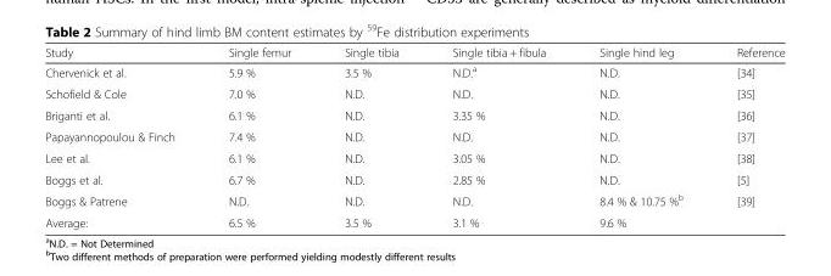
<table><thead><tr><td>Study</td><td>Single femur</td><td>Single tibia</td><td>Single tibia + fibula</td><td>Single hind leg</td><td>Reference</td></tr></thead><tbody><tr><td>Chervenick et al.</td><td>5.9 %</td><td>3.5 %</td><td>N.D.<sup>a</sup></td><td>N.D.</td><td>[34]</td></tr><tr><td>Schofield &amp; Cole</td><td>7.0 %</td><td>N.D.</td><td>N.D.</td><td>N.D.</td><td>[35]</td></tr><tr><td>Briganti et al.</td><td>6.1 %</td><td>N.D.</td><td>3.35 %</td><td>N.D.</td><td>[36]</td></tr><tr><td>Papayannopoulou &amp; Finch</td><td>7.4 %</td><td>N.D.</td><td>N.D.</td><td>N.D.</td><td>[37]</td></tr><tr><td>Lee et al.</td><td>6.1 %</td><td>N.D.</td><td>3.05 %</td><td>N.D.</td><td>[38]</td></tr><tr><td>Boggs et al.</td><td>6.7 %</td><td>N.D.</td><td>2.85 %</td><td>N.D.</td><td>[5]</td></tr><tr><td>Boggs &amp; Patrene</td><td>N.D.</td><td>N.D.</td><td>N.D.</td><td>8.4 % &amp; 10.75 %<sup>b</sup></td><td>[39]</td></tr><tr><td>Average:</td><td>6.5 %</td><td>3.5 %</td><td>3.1 %</td><td>9.6 %</td><td></td></tr></tbody></table>